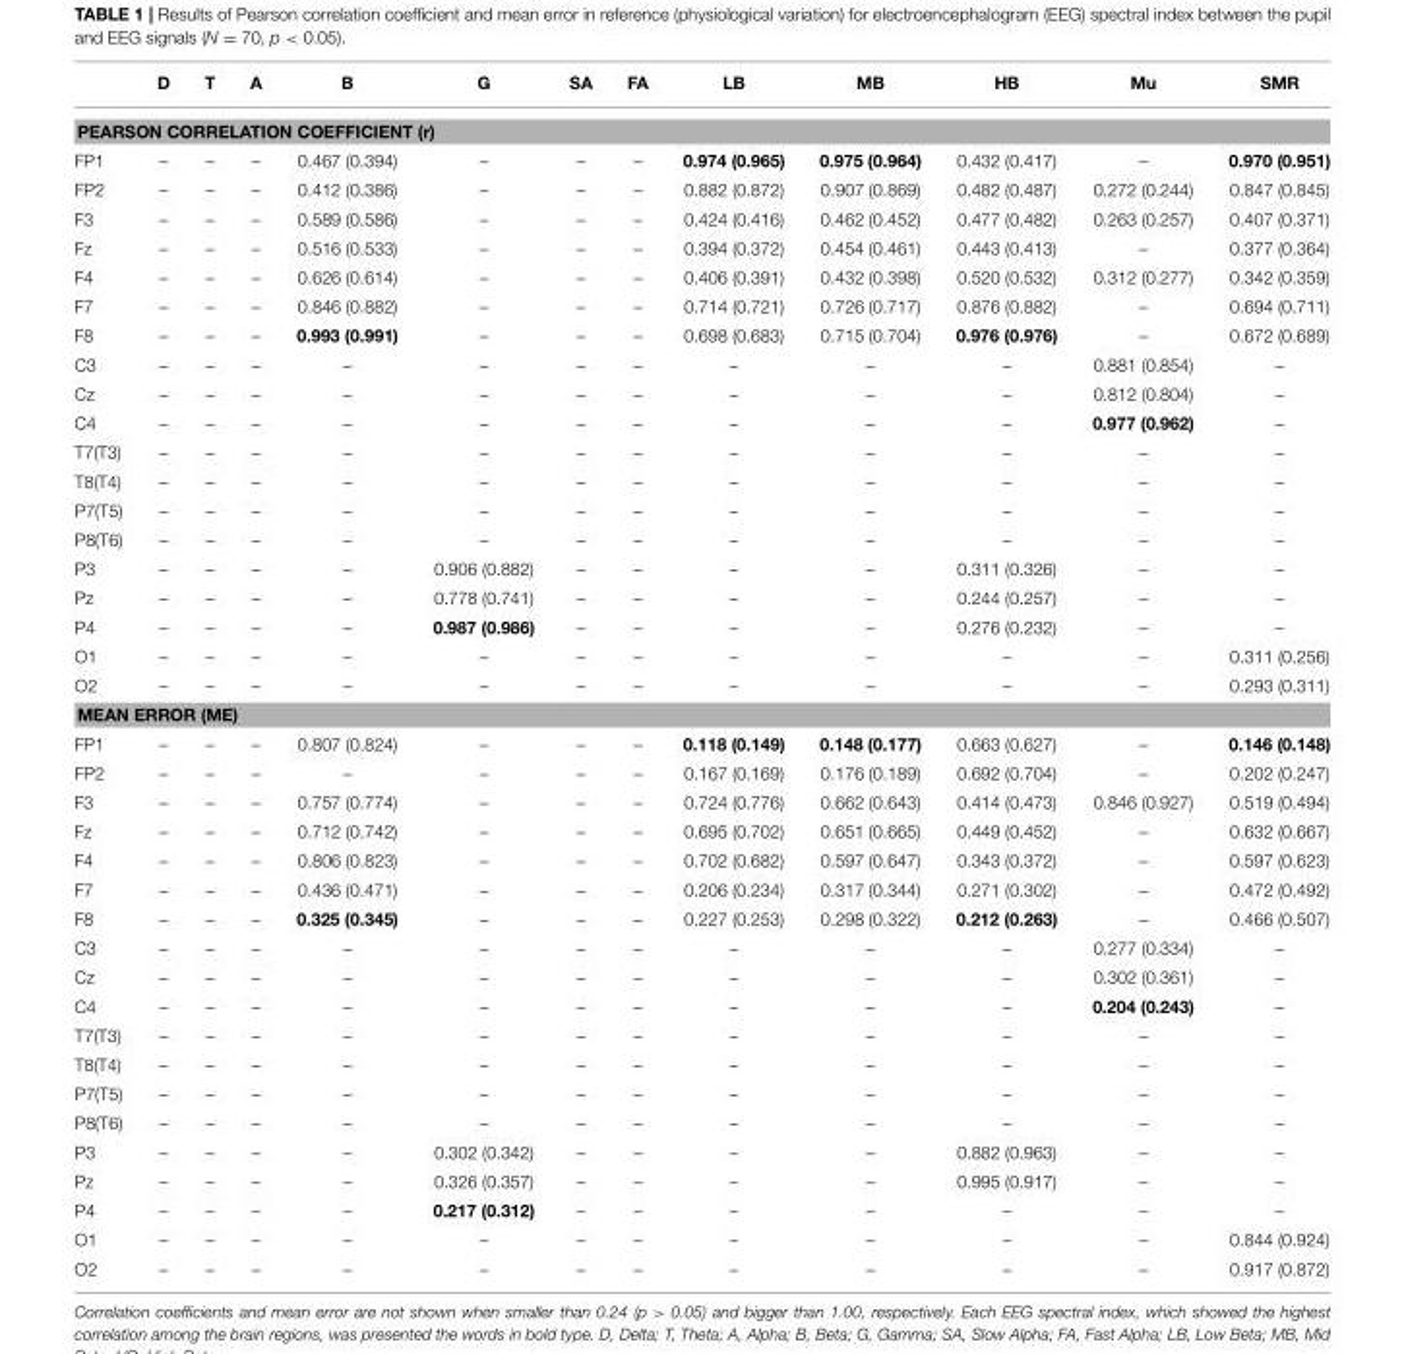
<table><thead><tr><td></td><td>D</td><td>T</td><td>A</td><td>B</td><td>G</td><td>SA</td><td>FA</td><td>LB</td><td>MB</td><td>HB</td><td>Mu</td><td>SMR</td></tr></thead><tbody><tr><td colspan="13">PEARSON CORRELATION COEFFICIENT (r)</td></tr><tr><td>FP1</td><td>–</td><td>–</td><td>–</td><td>0.467 (0.394)</td><td>–</td><td>–</td><td>–</td><td>0.974 (0.965)</td><td>0.975 (0.964)</td><td>0.432 (0.417)</td><td>–</td><td>0.970 (0.951)</td></tr><tr><td>FP2</td><td>–</td><td>–</td><td>–</td><td>0.412 (0.386)</td><td>–</td><td>–</td><td>–</td><td>0.882 (0.872)</td><td>0.907 (0.869)</td><td>0.482 (0.487)</td><td>0.272 (0.244)</td><td>0.847 (0.845)</td></tr><tr><td>F3</td><td>–</td><td>–</td><td>–</td><td>0.589 (0.586)</td><td>–</td><td>–</td><td>–</td><td>0.424 (0.416)</td><td>0.462 (0.452)</td><td>0.477 (0.482)</td><td>0.263 (0.257)</td><td>0.407 (0.371)</td></tr><tr><td>Fz</td><td>–</td><td>–</td><td>–</td><td>0.516 (0.533)</td><td>–</td><td>–</td><td>–</td><td>0.394 (0.372)</td><td>0.454 (0.461)</td><td>0.443 (0.413)</td><td>–</td><td>0.377 (0.364)</td></tr><tr><td>F4</td><td>–</td><td>–</td><td>–</td><td>0.626 (0.614)</td><td>–</td><td>–</td><td>–</td><td>0.406 (0.391)</td><td>0.432 (0.398)</td><td>0.520 (0.532)</td><td>0.312 (0.277)</td><td>0.342 (0.359)</td></tr><tr><td>F7</td><td>–</td><td>–</td><td>–</td><td>0.846 (0.882)</td><td>–</td><td>–</td><td>–</td><td>0.714 (0.721)</td><td>0.726 (0.717)</td><td>0.876 (0.882)</td><td>–</td><td>0.694 (0.711)</td></tr><tr><td>F8</td><td>–</td><td>–</td><td>–</td><td>0.993 (0.991)</td><td>–</td><td>–</td><td>–</td><td>0.698 (0.683)</td><td>0.715 (0.704)</td><td>0.976 (0.976)</td><td>–</td><td>0.672 (0.689)</td></tr><tr><td>C3</td><td>–</td><td>–</td><td>–</td><td>–</td><td>–</td><td>–</td><td>–</td><td>–</td><td>–</td><td>–</td><td>0.881 (0.854)</td><td>–</td></tr><tr><td>Cz</td><td>–</td><td>–</td><td>–</td><td>–</td><td>–</td><td>–</td><td>–</td><td>–</td><td>–</td><td>–</td><td>0.812 (0.804)</td><td>–</td></tr><tr><td>C4</td><td>–</td><td>–</td><td>–</td><td>–</td><td>–</td><td>–</td><td>–</td><td>–</td><td>–</td><td>–</td><td>0.977 (0.962)</td><td>–</td></tr><tr><td>T7(T3)</td><td>–</td><td>–</td><td>–</td><td>–</td><td>–</td><td>–</td><td>–</td><td>–</td><td>–</td><td>–</td><td>–</td><td>–</td></tr><tr><td>T8(T4)</td><td>–</td><td>–</td><td>–</td><td>–</td><td>–</td><td>–</td><td>–</td><td>–</td><td>–</td><td>–</td><td>–</td><td>–</td></tr><tr><td>P7(T5)</td><td>–</td><td>–</td><td>–</td><td>–</td><td>–</td><td>–</td><td>–</td><td>–</td><td>–</td><td>–</td><td>–</td><td>–</td></tr><tr><td>P8(T6)</td><td>–</td><td>–</td><td>–</td><td>–</td><td>–</td><td>–</td><td>–</td><td>–</td><td>–</td><td>–</td><td>–</td><td>–</td></tr><tr><td>P3</td><td>–</td><td>–</td><td>–</td><td>–</td><td>0.906 (0.882)</td><td>–</td><td>–</td><td>–</td><td>–</td><td>0.311 (0.326)</td><td>–</td><td>–</td></tr><tr><td>Pz</td><td>–</td><td>–</td><td>–</td><td>–</td><td>0.778 (0.741)</td><td>–</td><td>–</td><td>–</td><td>–</td><td>0.244 (0.257)</td><td>–</td><td>–</td></tr><tr><td>P4</td><td>–</td><td>–</td><td>–</td><td>–</td><td>0.987 (0.986)</td><td>–</td><td>–</td><td>–</td><td>–</td><td>0.276 (0.232)</td><td>–</td><td>–</td></tr><tr><td>O1</td><td>–</td><td>–</td><td>–</td><td>–</td><td>–</td><td>–</td><td>–</td><td>–</td><td>–</td><td>–</td><td>–</td><td>0.311 (0.256)</td></tr><tr><td>O2</td><td>–</td><td>–</td><td>–</td><td>–</td><td>–</td><td>–</td><td>–</td><td>–</td><td>–</td><td>–</td><td>–</td><td>0.293 (0.311)</td></tr><tr><td colspan="13">MEAN ERROR (ME)</td></tr><tr><td>FP1</td><td>–</td><td>–</td><td>–</td><td>0.807 (0.824)</td><td>–</td><td>–</td><td>–</td><td>0.118 (0.149)</td><td>0.148 (0.177)</td><td>0.663 (0.627)</td><td>–</td><td>0.146 (0.148)</td></tr><tr><td>FP2</td><td>–</td><td>–</td><td>–</td><td>–</td><td>–</td><td>–</td><td>–</td><td>0.167 (0.169)</td><td>0.176 (0.189)</td><td>0.692 (0.704)</td><td>–</td><td>0.202 (0.247)</td></tr><tr><td>F3</td><td>–</td><td>–</td><td>–</td><td>0.757 (0.774)</td><td>–</td><td>–</td><td>–</td><td>0.724 (0.776)</td><td>0.662 (0.643)</td><td>0.414 (0.473)</td><td>0.846 (0.927)</td><td>0.519 (0.494)</td></tr><tr><td>Fz</td><td>–</td><td>–</td><td>–</td><td>0.712 (0.742)</td><td>–</td><td>–</td><td>–</td><td>0.695 (0.702)</td><td>0.651 (0.665)</td><td>0.449 (0.452)</td><td>–</td><td>0.632 (0.667)</td></tr><tr><td>F4</td><td>–</td><td>–</td><td>–</td><td>0.806 (0.823)</td><td>–</td><td>–</td><td>–</td><td>0.702 (0.682)</td><td>0.597 (0.647)</td><td>0.343 (0.372)</td><td>–</td><td>0.597 (0.623)</td></tr><tr><td>F7</td><td>–</td><td>–</td><td>–</td><td>0.436 (0.471)</td><td>–</td><td>–</td><td>–</td><td>0.206 (0.234)</td><td>0.317 (0.344)</td><td>0.271 (0.302)</td><td>–</td><td>0.472 (0.492)</td></tr><tr><td>F8</td><td>–</td><td>–</td><td>–</td><td>0.325 (0.345)</td><td>–</td><td>–</td><td>–</td><td>0.227 (0.253)</td><td>0.298 (0.322)</td><td>0.212 (0.263)</td><td>–</td><td>0.466 (0.507)</td></tr><tr><td>C3</td><td>–</td><td>–</td><td>–</td><td>–</td><td>–</td><td>–</td><td>–</td><td>–</td><td>–</td><td>–</td><td>0.277 (0.334)</td><td>–</td></tr><tr><td>Cz</td><td>–</td><td>–</td><td>–</td><td>–</td><td>–</td><td>–</td><td>–</td><td>–</td><td>–</td><td>–</td><td>0.302 (0.361)</td><td>–</td></tr><tr><td>C4</td><td>–</td><td>–</td><td>–</td><td>–</td><td>–</td><td>–</td><td>–</td><td>–</td><td>–</td><td>–</td><td>0.204 (0.243)</td><td>–</td></tr><tr><td>T7(T3)</td><td>–</td><td>–</td><td>–</td><td>–</td><td>–</td><td>–</td><td>–</td><td>–</td><td>–</td><td>–</td><td>–</td><td>–</td></tr><tr><td>T8(T4)</td><td>–</td><td>–</td><td>–</td><td>–</td><td>–</td><td>–</td><td>–</td><td>–</td><td>–</td><td>–</td><td>–</td><td>–</td></tr><tr><td>P7(T5)</td><td>–</td><td>–</td><td>–</td><td>–</td><td>–</td><td>–</td><td>–</td><td>–</td><td>–</td><td>–</td><td>–</td><td>–</td></tr><tr><td>P8(T6)</td><td>–</td><td>–</td><td>–</td><td>–</td><td>–</td><td>–</td><td>–</td><td>–</td><td>–</td><td>–</td><td>–</td><td>–</td></tr><tr><td>P3</td><td>–</td><td>–</td><td>–</td><td>–</td><td>0.302 (0.342)</td><td>–</td><td>–</td><td>–</td><td>–</td><td>0.882 (0.963)</td><td>–</td><td>–</td></tr><tr><td>Pz</td><td>–</td><td>–</td><td>–</td><td>–</td><td>0.326 (0.357)</td><td>–</td><td>–</td><td>–</td><td>–</td><td>0.995 (0.917)</td><td>–</td><td>–</td></tr><tr><td>P4</td><td>–</td><td>–</td><td>–</td><td>–</td><td>0.217 (0.312)</td><td>–</td><td>–</td><td>–</td><td>–</td><td>–</td><td>–</td><td>–</td></tr><tr><td>O1</td><td>–</td><td>–</td><td>–</td><td>–</td><td>–</td><td>–</td><td>–</td><td>–</td><td>–</td><td>–</td><td>–</td><td>0.844 (0.924)</td></tr><tr><td>O2</td><td>–</td><td>–</td><td>–</td><td>–</td><td>–</td><td>–</td><td>–</td><td>–</td><td>–</td><td>–</td><td>–</td><td>0.917 (0.872)</td></tr></tbody></table>